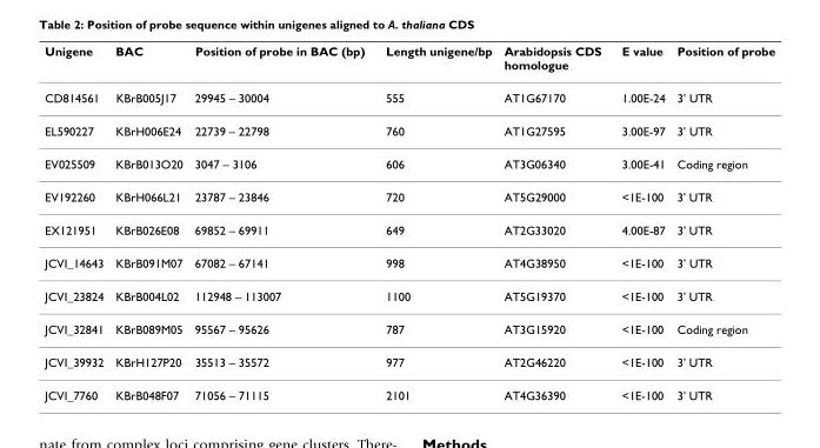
<table><thead><tr><td>Unigene</td><td>BAC</td><td>Position of probe in BAC (bp)</td><td>Length unigene/bp</td><td>Arabidopsis CDS homologue</td><td>E value</td><td>Position of probe</td></tr></thead><tbody><tr><td>CD814561</td><td>KBrB005J17</td><td>29945 – 30004</td><td>555</td><td>AT1G67170</td><td>1.00E-24</td><td>3&#x27; UTR</td></tr><tr><td>EL590227</td><td>KBrH006E24</td><td>22739 – 22798</td><td>760</td><td>AT1G27595</td><td>3.00E-97</td><td>3&#x27; UTR</td></tr><tr><td>EV025509</td><td>KBrB013O20</td><td>3047 – 3106</td><td>606</td><td>AT3G06340</td><td>3.00E-41</td><td>Coding region</td></tr><tr><td>EV192260</td><td>KBrH066L21</td><td>23787 – 23846</td><td>720</td><td>AT5G29000</td><td>&lt;1E-100</td><td>3&#x27; UTR</td></tr><tr><td>EX121951</td><td>KBrB026E08</td><td>69852 – 69911</td><td>649</td><td>AT2G33020</td><td>4.00E-87</td><td>3&#x27; UTR</td></tr><tr><td>JCVI_14643</td><td>KBrB091M07</td><td>67082 – 67141</td><td>998</td><td>AT4G38950</td><td>&lt;1E-100</td><td>3&#x27; UTR</td></tr><tr><td>JCVI_23824</td><td>KBrB004L02</td><td>112948 – 113007</td><td>1100</td><td>AT5G19370</td><td>&lt;1E-100</td><td>3&#x27; UTR</td></tr><tr><td>JCVI_32841</td><td>KBrB089M05</td><td>95567 – 95626</td><td>787</td><td>AT3G15920</td><td>&lt;1E-100</td><td>Coding region</td></tr><tr><td>JCVI_39932</td><td>KBrH127P20</td><td>35513 – 35572</td><td>977</td><td>AT2G46220</td><td>&lt;1E-100</td><td>3&#x27; UTR</td></tr><tr><td>JCVI_7760</td><td>KBrB048F07</td><td>71056 – 71115</td><td>2101</td><td>AT4G36390</td><td>&lt;1E-100</td><td>3&#x27; UTR</td></tr></tbody></table>